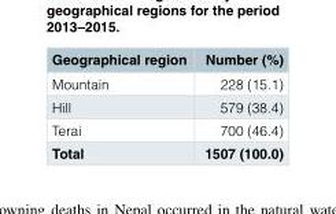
<table><thead><tr><td>Geographical region</td><td>Number (%)</td></tr></thead><tbody><tr><td>Mountain</td><td>228 (15.1)</td></tr><tr><td>Hill</td><td>579 (38.4)</td></tr><tr><td>Terai</td><td>700 (46.4)</td></tr><tr><td>Total</td><td>1507 (100.0)</td></tr></tbody></table>